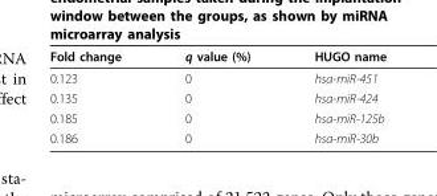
<table><thead><tr><td>Fold change</td><td>q value (%)</td><td>HUGO name</td></tr></thead><tbody><tr><td>0.123</td><td>0</td><td>hsa-miR-451</td></tr><tr><td>0.135</td><td>0</td><td>hsa-miR-424</td></tr><tr><td>0.185</td><td>0</td><td>hsa-miR-125b</td></tr><tr><td>0.186</td><td>0</td><td>hsa-miR-30b</td></tr></tbody></table>